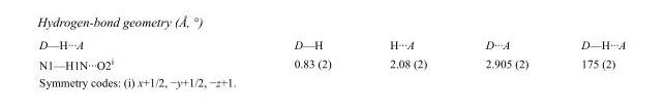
<table><tbody><tr><td>D—H···A</td><td>D—H</td><td>H···A</td><td>D···A</td><td>D—H···A</td></tr><tr><td>N1—H1N···O2<sup>i</sup></td><td>0.83 (2)</td><td>2.08 (2)</td><td>2.905 (2)</td><td>175 (2)</td></tr></tbody></table>